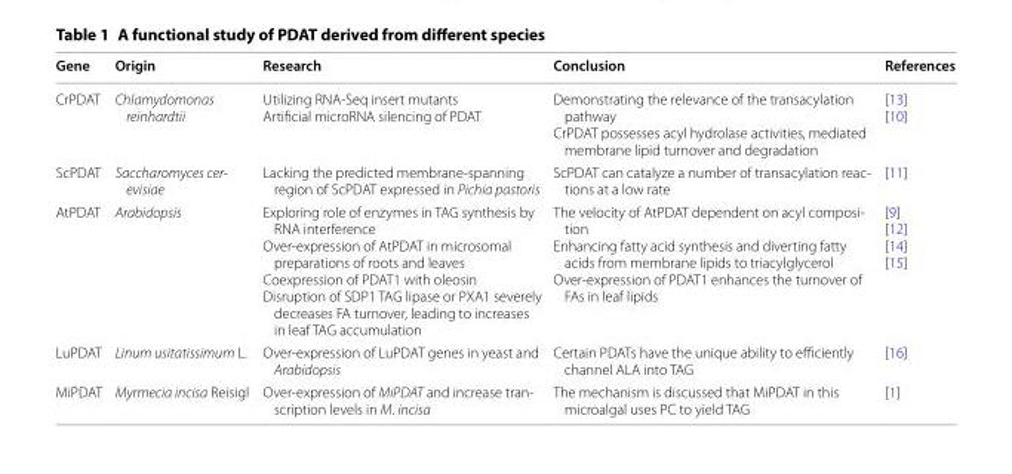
<table><thead><tr><td>Gene</td><td>Origin</td><td>Research</td><td>Conclusion</td><td>References</td></tr></thead><tbody><tr><td>CrPDAT</td><td>Chlamydomonas reinhardtii</td><td>Utilizing RNA-Seq insert mutants Artificial microRNA silencing of PDAT</td><td>Demonstrating the relevance of the transacylation pathway CrPDAT possesses acyl hydrolase activities, mediated membrane lipid turnover and degradation</td><td>[13] [10]</td></tr><tr><td>ScPDAT</td><td>Saccharomyces cer- evisiae</td><td>Lacking the predicted membrane-spanning region of ScPDAT expressed in Pichia pastoris</td><td>ScPDAT can catalyze a number of transacylation reac- tions at a low rate</td><td>[11]</td></tr><tr><td>AtPDAT</td><td>Arabidopsis</td><td>Exploring role of enzymes in TAG synthesis by RNA interference Over-expression of AtPDAT in microsomal preparations of roots and leaves Coexpression of PDAT1 with oleosin Disruption of SDP1 TAG lipase or PXA1 severely decreases FA turnover, leading to increases in leaf TAG accumulation</td><td>The velocity of AtPDAT dependent on acyl composi- tion Enhancing fatty acid synthesis and diverting fatty acids from membrane lipids to triacylglycerol Over-expression of PDAT1 enhances the turnover of FAs in leaf lipids</td><td>[9] [12] [14] [15]</td></tr><tr><td>LuPDAT</td><td>Linum usitatissimum L.</td><td>Over-expression of LuPDAT genes in yeast and Arabidopsis</td><td>Certain PDATs have the unique ability to efficiently channel ALA into TAG</td><td>[16]</td></tr><tr><td>MiPDAT</td><td>Myrmecia incisa Reisigl</td><td>Over-expression of MiPDAT and increase tran- scription levels in M. incisa</td><td>The mechanism is discussed that MiPDAT in this microalgal uses PC to yield TAG</td><td>[1]</td></tr></tbody></table>